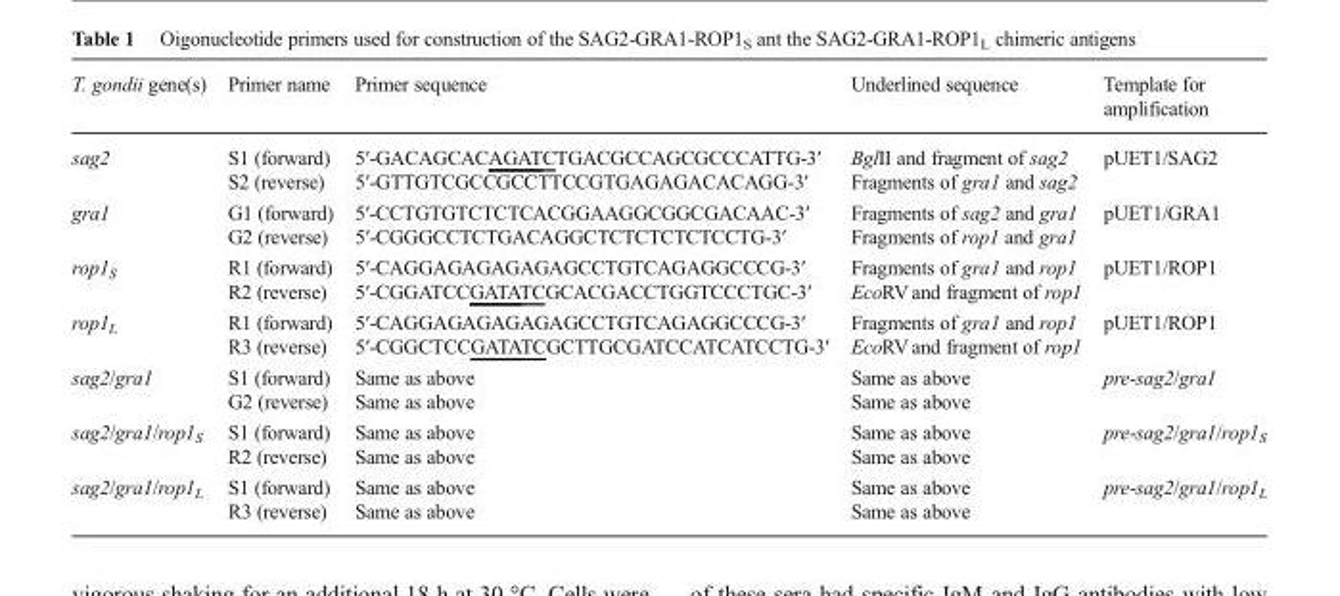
<table><thead><tr><td>T. gondii gene(s)</td><td>Primer name</td><td>Primer sequence</td><td>Underlined sequence</td><td>Template for amplification</td></tr></thead><tbody><tr><td rowspan="2">sag2</td><td>S1 (forward)</td><td>5′-GACAGCACAGATCTGACGCCAGCGCCCATTG-3′</td><td>BglII and fragment of sag2</td><td rowspan="2">pUET1/SAG2</td></tr><tr><td>S2 (reverse)</td><td>5′-GTTGTCGCCGCCTTCCGTGAGAGACACAGG-3′</td><td>Fragments of gra1 and sag2</td></tr><tr><td rowspan="2">gra1</td><td>G1 (forward)</td><td>5′-CCTGTGTCTCTCACGGAAGGCGGCGACAAC-3′</td><td>Fragments of sag2 and gra1</td><td rowspan="2">pUET1/GRA1</td></tr><tr><td>G2 (reverse)</td><td>5′-CGGGCCTCTGACAGGCTCTCTCTCTCCTG-3′</td><td>Fragments of rop1 and gra1</td></tr><tr><td rowspan="2">rop1<sub>S</sub></td><td>R1 (forward)</td><td>5′-CAGGAGAGAGAGAGCCTGTCAGAGGCCCG-3′</td><td>Fragments of gra1 and rop1</td><td rowspan="2">pUET1/ROP1</td></tr><tr><td>R2 (reverse)</td><td>5′-CGGATCCGATATCGCACGACCTGGTCCCTGC-3′</td><td>EcoRV and fragment of rop1</td></tr><tr><td rowspan="2">rop1<sub>L</sub></td><td>R1 (forward)</td><td>5′-CAGGAGAGAGAGAGCCTGTCAGAGGCCCG-3′</td><td>Fragments of gra1 and rop1</td><td rowspan="2">pUET1/ROP1</td></tr><tr><td>R3 (reverse)</td><td>5′-CGGCTCCGATATCGCTTGCGATCCATCATCCTG-3′</td><td>EcoRV and fragment of rop1</td></tr><tr><td rowspan="2">sag2/gra1</td><td>S1 (forward)</td><td>Same as above</td><td>Same as above</td><td rowspan="2">pre-sag2/gra1</td></tr><tr><td>G2 (reverse)</td><td>Same as above</td><td>Same as above</td></tr><tr><td rowspan="2">sag2/gra1/rop1<sub>S</sub></td><td>S1 (forward)</td><td>Same as above</td><td>Same as above</td><td rowspan="2">pre-sag2/gra1/rop1<sub>S</sub></td></tr><tr><td>R2 (reverse)</td><td>Same as above</td><td>Same as above</td></tr><tr><td rowspan="2">sag2/gra1/rop1<sub>L</sub></td><td>S1 (forward)</td><td>Same as above</td><td>Same as above</td><td rowspan="2">pre-sag2/gra1/rop1<sub>L</sub></td></tr><tr><td>R3 (reverse)</td><td>Same as above</td><td>Same as above</td></tr></tbody></table>